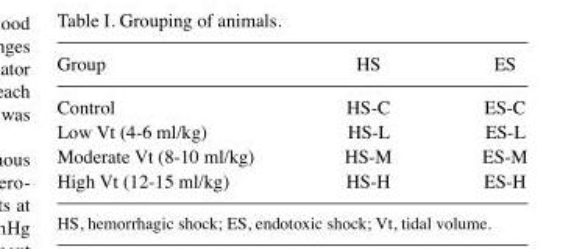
<table><thead><tr><td>Group</td><td>HS</td><td>ES</td></tr></thead><tbody><tr><td>Control</td><td>HS-C</td><td>ES-C</td></tr><tr><td>Low Vt (4-6 ml/kg)</td><td>HS-L</td><td>ES-L</td></tr><tr><td>Moderate Vt (8-10 ml/kg)</td><td>HS-M</td><td>ES-M</td></tr><tr><td>High Vt (12-15 ml/kg)</td><td>HS-H</td><td>ES-H</td></tr></tbody></table>